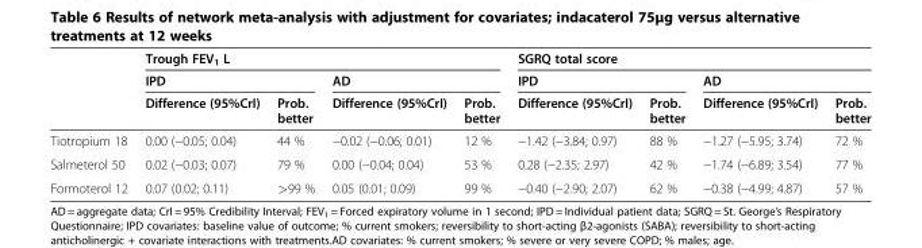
<table><thead><tr><td rowspan="3"></td><td colspan="4">Trough FEV<sub>1</sub> L</td><td colspan="4">SGRQ total score</td></tr><tr><td colspan="2">IPD</td><td colspan="2">AD</td><td colspan="2">IPD</td><td colspan="2">AD</td></tr><tr><td>Difference (95%CrI)</td><td>Prob. better</td><td>Difference (95%CrI)</td><td>Prob. better</td><td>Difference (95%CrI)</td><td>Prob. better</td><td>Difference (95%CrI)</td><td>Prob. better</td></tr></thead><tbody><tr><td>Tiotropium 18</td><td>0.00 (−0.05; 0.04)</td><td>44 %</td><td>−0.02 (−0.06; 0.01)</td><td>12 %</td><td>−1.42 (−3.84; 0.97)</td><td>88 %</td><td>−1.27 (−5.95; 3.74)</td><td>72 %</td></tr><tr><td>Salmeterol 50</td><td>0.02 (−0.03; 0.07)</td><td>79 %</td><td>0.00 (−0.04; 0.04)</td><td>53 %</td><td>0.28 (−2.35; 2.97)</td><td>42 %</td><td>−1.74 (−6.89; 3.54)</td><td>77 %</td></tr><tr><td>Formoterol 12</td><td>0.07 (0.02; 0.11)</td><td>&gt;99 %</td><td>0.05 (0.01; 0.09)</td><td>99 %</td><td>−0.40 (−2.90; 2.07)</td><td>62 %</td><td>−0.38 (−4.99; 4.87)</td><td>57 %</td></tr></tbody></table>